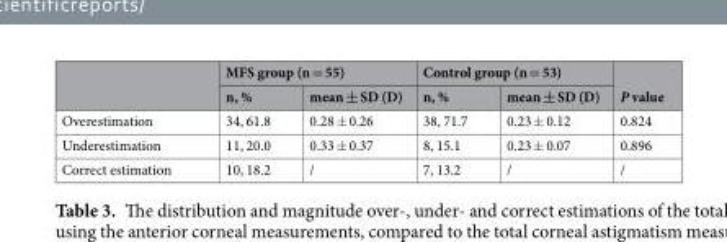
<table><thead><tr><td rowspan="2"></td><td colspan="2">MFS group (n = 55)</td><td colspan="2">Control group (n = 53)</td><td rowspan="2">P value</td></tr><tr><td>n, %</td><td>mean ± SD (D)</td><td>n, %</td><td>mean ± SD (D)</td></tr></thead><tbody><tr><td>Overestimation</td><td>34, 61.8</td><td>0.28 ± 0.26</td><td>38, 71.7</td><td>0.23 ± 0.12</td><td>0.824</td></tr><tr><td>Underestimation</td><td>11, 20.0</td><td>0.33 ± 0.37</td><td>8, 15.1</td><td>0.23 ± 0.07</td><td>0.896</td></tr><tr><td>Correct estimation</td><td>10, 18.2</td><td>/</td><td>7, 13.2</td><td>/</td><td>/</td></tr></tbody></table>